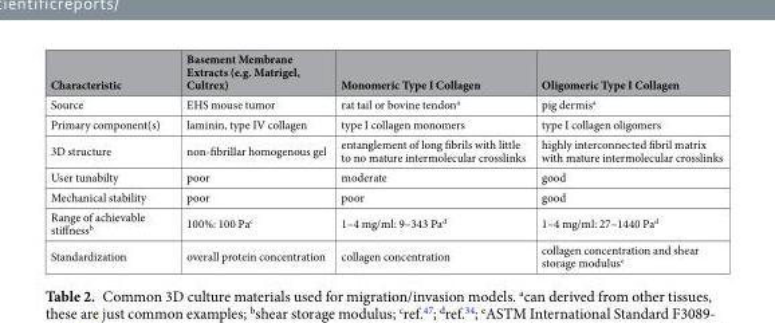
<table><thead><tr><td>Characteristic</td><td>Basement Membrane Extracts (e.g. Matrigel, Cultrex)</td><td>Monomeric Type I Collagen</td><td>Oligomeric Type I Collagen</td></tr></thead><tbody><tr><td>Source</td><td>EHS mouse tumor</td><td>rat tail or bovine tendon<sup>a</sup></td><td>pig dermis<sup>a</sup></td></tr><tr><td>Primary component(s)</td><td>laminin, type IV collagen</td><td>type I collagen monomers</td><td>type I collagen oligomers</td></tr><tr><td>3D structure</td><td>non-fibrillar homogenous gel</td><td>entanglement of long fibrils with little to no mature intermolecular crosslinks</td><td>highly interconnected fibril matrix with mature intermolecular crosslinks</td></tr><tr><td>User tunabilty</td><td>poor</td><td>moderate</td><td>good</td></tr><tr><td>Mechanical stability</td><td>poor</td><td>poor</td><td>good</td></tr><tr><td>Range of achievable stiffness<sup>b</sup></td><td>100%: 100 Pa<sup>c</sup></td><td>1–4 mg/ml: 9–343 Pa<sup>d</sup></td><td>1–4 mg/ml: 27–1440 Pa<sup>d</sup></td></tr><tr><td>Standardization</td><td>overall protein concentration</td><td>collagen concentration</td><td>collagen concentration and shear storage modulus<sup>e</sup></td></tr></tbody></table>